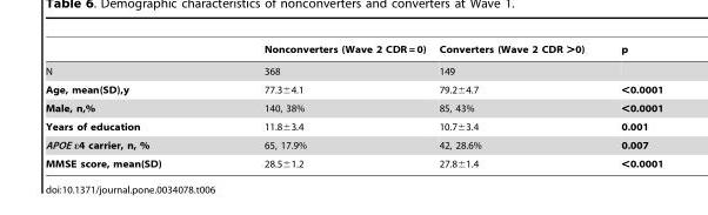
<table><thead><tr><td></td><td>Nonconverters (Wave 2 CDR = 0)</td><td>Converters (Wave 2 CDR &gt;0)</td><td>p</td></tr></thead><tbody><tr><td>N</td><td>368</td><td>149</td><td></td></tr><tr><td>Age, mean(SD),y</td><td>77.3±4.1</td><td>79.2±4.7</td><td>&lt;0.0001</td></tr><tr><td>Male, n,%</td><td>140, 38%</td><td>85, 43%</td><td>&lt;0.0001</td></tr><tr><td>Years of education</td><td>11.8±3.4</td><td>10.7±3.4</td><td>0.001</td></tr><tr><td>APOE ε4 carrier, n, %</td><td>65, 17.9%</td><td>42, 28.6%</td><td>0.007</td></tr><tr><td>MMSE score, mean(SD)</td><td>28.5±1.2</td><td>27.8±1.4</td><td>&lt;0.0001</td></tr></tbody></table>